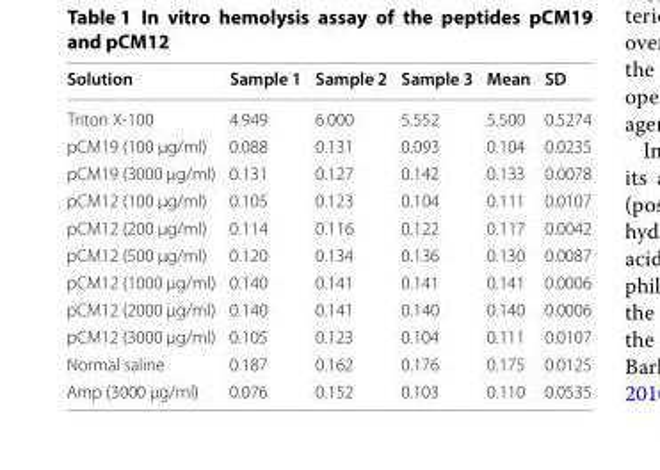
<table><thead><tr><td>Solution</td><td>Sample 1</td><td>Sample 2</td><td>Sample 3</td><td>Mean</td><td>SD</td></tr></thead><tbody><tr><td>Triton X-100</td><td>4.949</td><td>6.000</td><td>5.552</td><td>5.500</td><td>0.5274</td></tr><tr><td>pCM19 (100 µg/ml)</td><td>0.088</td><td>0.131</td><td>0.093</td><td>0.104</td><td>0.0235</td></tr><tr><td>pCM19 (3000 µg/ml)</td><td>0.131</td><td>0.127</td><td>0.142</td><td>0.133</td><td>0.0078</td></tr><tr><td>pCM12 (100 µg/ml)</td><td>0.105</td><td>0.123</td><td>0.104</td><td>0.111</td><td>0.0107</td></tr><tr><td>pCM12 (200 µg/ml)</td><td>0.114</td><td>0.116</td><td>0.122</td><td>0.117</td><td>0.0042</td></tr><tr><td>pCM12 (500 µg/ml)</td><td>0.120</td><td>0.134</td><td>0.136</td><td>0.130</td><td>0.0087</td></tr><tr><td>pCM12 (1000 µg/ml)</td><td>0.140</td><td>0.141</td><td>0.141</td><td>0.141</td><td>0.0006</td></tr><tr><td>pCM12 (2000 µg/ml)</td><td>0.140</td><td>0.141</td><td>0.140</td><td>0.140</td><td>0.0006</td></tr><tr><td>pCM12 (3000 µg/ml)</td><td>0.105</td><td>0.123</td><td>0.104</td><td>0.111</td><td>0.0107</td></tr><tr><td>Normal saline</td><td>0.187</td><td>0.162</td><td>0.176</td><td>0.175</td><td>0.0125</td></tr><tr><td>Amp (3000 µg/ml)</td><td>0.076</td><td>0.152</td><td>0.103</td><td>0.110</td><td>0.0535</td></tr></tbody></table>